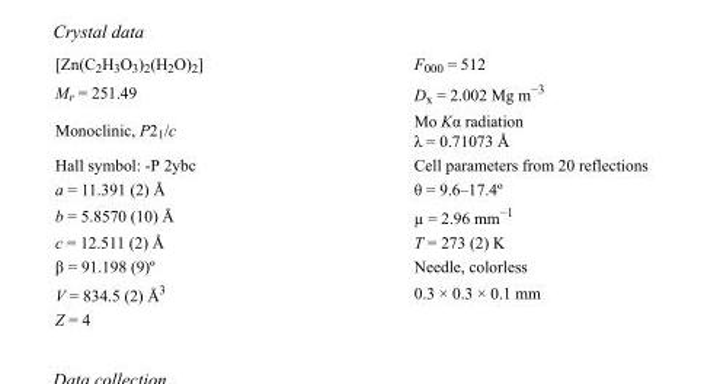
<table><tbody><tr><td>[Zn(C<sub>2</sub>H<sub>3</sub>O<sub>3</sub>)<sub>2</sub>(H<sub>2</sub>O)<sub>2</sub>]</td><td>F<sub>000</sub> = 512</td></tr><tr><td>M<sub>r</sub> = 251.49</td><td>D<sub>x</sub> = 2.002 Mg m<sup>−3</sup></td></tr><tr><td>Monoclinic, P2<sub>1</sub>/c</td><td>Mo Kα radiation λ = 0.71073 Å</td></tr><tr><td>Hall symbol: -P 2ybc</td><td>Cell parameters from 20 reflections</td></tr><tr><td>a = 11.391 (2) Å</td><td>θ = 9.6–17.4º</td></tr><tr><td>b = 5.8570 (10) Å</td><td>µ = 2.96 mm<sup>−1</sup></td></tr><tr><td>c = 12.511 (2) Å</td><td>T = 273 (2) K</td></tr><tr><td>β = 91.198 (9)º</td><td>Needle, colorless</td></tr><tr><td>V = 834.5 (2) Å<sup>3</sup></td><td>0.3 × 0.3 × 0.1 mm</td></tr><tr><td>Z = 4</td><td></td></tr></tbody></table>